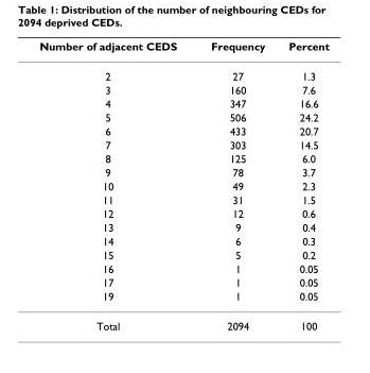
<table><thead><tr><td>Number of adjacent CEDS</td><td>Frequency</td><td>Percent</td></tr></thead><tbody><tr><td>2</td><td>27</td><td>1.3</td></tr><tr><td>3</td><td>160</td><td>7.6</td></tr><tr><td>4</td><td>347</td><td>16.6</td></tr><tr><td>5</td><td>506</td><td>24.2</td></tr><tr><td>6</td><td>433</td><td>20.7</td></tr><tr><td>7</td><td>303</td><td>14.5</td></tr><tr><td>8</td><td>125</td><td>6.0</td></tr><tr><td>9</td><td>78</td><td>3.7</td></tr><tr><td>10</td><td>49</td><td>2.3</td></tr><tr><td>11</td><td>31</td><td>1.5</td></tr><tr><td>12</td><td>12</td><td>0.6</td></tr><tr><td>13</td><td>9</td><td>0.4</td></tr><tr><td>14</td><td>6</td><td>0.3</td></tr><tr><td>15</td><td>5</td><td>0.2</td></tr><tr><td>16</td><td>1</td><td>0.05</td></tr><tr><td>17</td><td>1</td><td>0.05</td></tr><tr><td>19</td><td>1</td><td>0.05</td></tr><tr><td>Total</td><td>2094</td><td>100</td></tr></tbody></table>